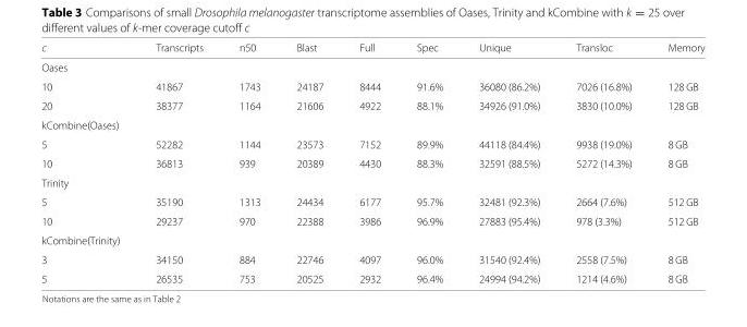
<table><thead><tr><td>c</td><td>Transcripts</td><td>n50</td><td>Blast</td><td>Full</td><td>Spec</td><td>Unique</td><td>Transloc</td><td>Memory</td></tr></thead><tbody><tr><td colspan="9">Oases</td></tr><tr><td>10</td><td>41867</td><td>1743</td><td>24187</td><td>8444</td><td>91.6%</td><td>36080 (86.2%)</td><td>7026 (16.8%)</td><td>128 GB</td></tr><tr><td>20</td><td>38377</td><td>1164</td><td>21606</td><td>4922</td><td>88.1%</td><td>34926 (91.0%)</td><td>3830 (10.0%)</td><td>128 GB</td></tr><tr><td colspan="9">kCombine(Oases)</td></tr><tr><td>5</td><td>52282</td><td>1144</td><td>23573</td><td>7152</td><td>89.9%</td><td>44118 (84.4%)</td><td>9938 (19.0%)</td><td>8 GB</td></tr><tr><td>10</td><td>36813</td><td>939</td><td>20389</td><td>4430</td><td>88.3%</td><td>32591 (88.5%)</td><td>5272 (14.3%)</td><td>8 GB</td></tr><tr><td colspan="9">Trinity</td></tr><tr><td>5</td><td>35190</td><td>1313</td><td>24434</td><td>6177</td><td>95.7%</td><td>32481 (92.3%)</td><td>2664 (7.6%)</td><td>512 GB</td></tr><tr><td>10</td><td>29237</td><td>970</td><td>22388</td><td>3986</td><td>96.9%</td><td>27883 (95.4%)</td><td>978 (3.3%)</td><td>512 GB</td></tr><tr><td colspan="9">kCombine(Trinity)</td></tr><tr><td>3</td><td>34150</td><td>884</td><td>22746</td><td>4097</td><td>96.0%</td><td>31540 (92.4%)</td><td>2558 (7.5%)</td><td>8 GB</td></tr><tr><td>5</td><td>26535</td><td>753</td><td>20525</td><td>2932</td><td>96.4%</td><td>24994 (94.2%)</td><td>1214 (4.6%)</td><td>8 GB</td></tr></tbody></table>